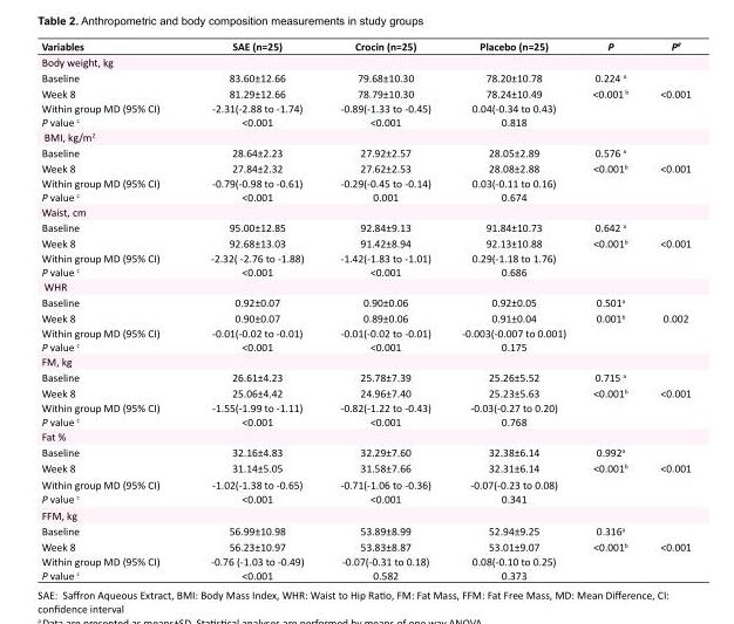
<table><tbody><tr><td>Variables</td><td>SAE (n=25)</td><td>Crocin (n=25)</td><td>Placebo (n=25)</td><td>P</td><td>P<sup>#</sup></td></tr><tr><td colspan="6">Body weight, kg</td></tr><tr><td>Baseline</td><td>83.60±12.66</td><td>79.68±10.30</td><td>78.20±10.78</td><td>0.224 <sup>a</sup></td><td></td></tr><tr><td>Week 8</td><td>81.29±12.66</td><td>78.79±10.30</td><td>78.24±10.49</td><td>&lt;0.001 <sup>b</sup></td><td>&lt;0.001</td></tr><tr><td>Within group MD (95% CI) P value <sup>c</sup></td><td>-2.31(-2.88 to -1.74) &lt;0.001</td><td>-0.89(-1.33 to -0.45) &lt;0.001</td><td>0.04(-0.34 to 0.43) 0.818</td><td></td><td></td></tr><tr><td colspan="6">BMI, kg/m<sup>2</sup></td></tr><tr><td>Baseline</td><td>28.64±2.23</td><td>27.92±2.57</td><td>28.05±2.89</td><td>0.576 <sup>a</sup></td><td></td></tr><tr><td>Week 8</td><td>27.84±2.32</td><td>27.62±2.53</td><td>28.08±2.88</td><td>&lt;0.001<sup>b</sup></td><td>&lt;0.001</td></tr><tr><td>Within group MD (95% CI) P value <sup>c</sup></td><td>-0.79(-0.98 to -0.61) &lt;0.001</td><td>-0.29(-0.45 to -0.14) 0.001</td><td>0.03(-0.11 to 0.16) 0.674</td><td></td><td></td></tr><tr><td colspan="6">Waist, cm</td></tr><tr><td>Baseline</td><td>95.00±12.85</td><td>92.84±9.13</td><td>91.84±10.73</td><td>0.642 <sup>a</sup></td><td></td></tr><tr><td>Week 8</td><td>92.68±13.03</td><td>91.42±8.94</td><td>92.13±10.88</td><td>&lt;0.001<sup>b</sup></td><td>&lt;0.001</td></tr><tr><td>Within group MD (95% CI) P value <sup>c</sup></td><td>-2.32( -2.76 to -1.88) &lt;0.001</td><td>-1.42(-1.83 to -1.01) &lt;0.001</td><td>0.29(-1.18 to 1.76) 0.686</td><td></td><td></td></tr><tr><td colspan="6">WHR</td></tr><tr><td>Baseline</td><td>0.92±0.07</td><td>0.90±0.06</td><td>0.92±0.05</td><td>0.501<sup>a</sup></td><td></td></tr><tr><td>Week 8</td><td>0.90±0.07</td><td>0.89±0.06</td><td>0.91±0.04</td><td>0.001<sup>b</sup></td><td>0.002</td></tr><tr><td>Within group MD (95% CI) P value <sup>c</sup></td><td>-0.01(-0.02 to -0.01) &lt;0.001</td><td>-0.01(-0.02 to -0.01) &lt;0.001</td><td>-0.003(-0.007 to 0.001) 0.175</td><td></td><td></td></tr><tr><td colspan="6">FM, kg</td></tr><tr><td>Baseline</td><td>26.61±4.23</td><td>25.78±7.39</td><td>25.26±5.52</td><td>0.715 <sup>a</sup></td><td></td></tr><tr><td>Week 8</td><td>25.06±4.42</td><td>24.96±7.40</td><td>25.23±5.63</td><td>&lt;0.001<sup>b</sup></td><td>&lt;0.001</td></tr><tr><td>Within group MD (95% CI) P value <sup>c</sup></td><td>-1.55(-1.99 to -1.11) &lt;0.001</td><td>-0.82(-1.22 to -0.43) &lt;0.001</td><td>-0.03(-0.27 to 0.20) 0.768</td><td></td><td></td></tr><tr><td colspan="6">Fat %</td></tr><tr><td>Baseline</td><td>32.16±4.83</td><td>32.29±7.60</td><td>32.38±6.14</td><td>0.992<sup>a</sup></td><td></td></tr><tr><td>Week 8</td><td>31.14±5.05</td><td>31.58±7.66</td><td>32.31±6.14</td><td>&lt;0.001<sup>b</sup></td><td>&lt;0.001</td></tr><tr><td>Within group MD (95% CI) P value <sup>c</sup></td><td>-1.02(-1.38 to -0.65) &lt;0.001</td><td>-0.71(-1.06 to -0.36) &lt;0.001</td><td>-0.07(-0.23 to 0.08) 0.341</td><td></td><td></td></tr><tr><td colspan="6">FFM, kg</td></tr><tr><td>Baseline</td><td>56.99±10.98</td><td>53.89±8.99</td><td>52.94±9.25</td><td>0.316<sup>a</sup></td><td></td></tr><tr><td>Week 8</td><td>56.23±10.97</td><td>53.83±8.87</td><td>53.01±9.07</td><td>&lt;0.001<sup>b</sup></td><td>&lt;0.001</td></tr><tr><td>Within group MD (95% CI) P value <sup>c</sup></td><td>-0.76 (-1.03 to -0.49) &lt;0.001</td><td>-0.07(-0.31 to 0.18) 0.582</td><td>0.08(-0.10 to 0.25) 0.373</td><td></td><td></td></tr></tbody></table>